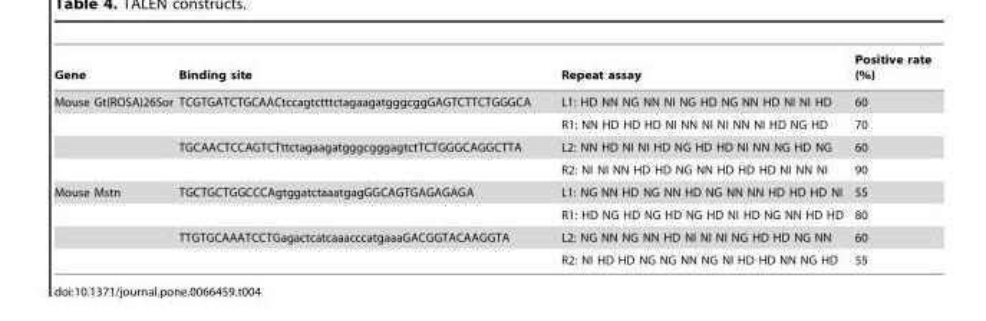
<table><thead><tr><td>Gene</td><td>Binding site</td><td>Repeat assay</td><td>Positive rate (%)</td></tr></thead><tbody><tr><td rowspan="4">Mouse Gt(ROSA)26Sor</td><td>TCGTGATCTGCAACtccagtctttctagaagatgggcggGAGTCTTCTGGGCA</td><td>L1: HD NN NG NN NI NG HD NG NN HD NI NI HD</td><td>60</td></tr><tr><td></td><td>R1: NN HD HD HD NI NN NI NI NN NI HD NG HD</td><td>70</td></tr><tr><td>TGCAACTCCAGTCTttctagaagatgggcgggagtctTCTGGGCAGGCTTA</td><td>L2: NN HD NI NI HD NG HD HD NI NN NG HD NG</td><td>60</td></tr><tr><td></td><td>R2: NI NI NN HD HD NG NN HD HD HD NI NN NI</td><td>90</td></tr><tr><td rowspan="4">Mouse Mstn</td><td>TGCTGCTGGCCCAgtggatctaaatgagGGCAGTGAGAGAGA</td><td>L1: NG NN HD NG NN HD NG NN NN HD HD HD NI</td><td>55</td></tr><tr><td></td><td>R1: HD NG HD NG HD NG HD NI HD NG NN HD HD</td><td>80</td></tr><tr><td>TTGTGCAAATCCTGagactcatcaaacccatgaaaGACGGTACAAGGTA</td><td>L2: NG NN NG NN HD NI NI NI NG HD HD NG NN</td><td>60</td></tr><tr><td></td><td>R2: NI HD HD NG NG NN NG NI HD HD NN NG HD</td><td>55</td></tr></tbody></table>